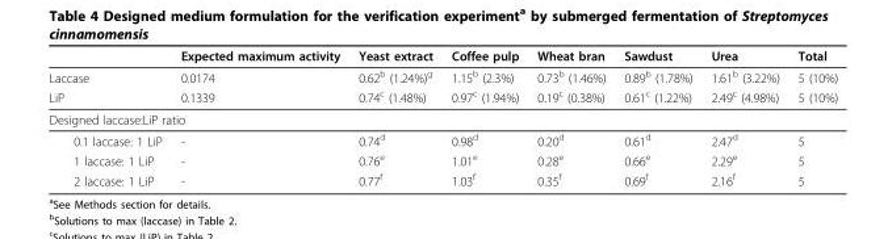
<table><thead><tr><td></td><td>Expected maximum activity</td><td>Yeast extract</td><td>Coffee pulp</td><td>Wheat bran</td><td>Sawdust</td><td>Urea</td><td>Total</td></tr></thead><tbody><tr><td>Laccase</td><td>0.0174</td><td>0.62<sup>b</sup> (1.24%)<sup>g</sup></td><td>1.15<sup>b</sup> (2.3%)</td><td>0.73<sup>b</sup> (1.46%)</td><td>0.89<sup>b</sup> (1.78%)</td><td>1.61<sup>b</sup> (3.22%)</td><td>5 (10%)</td></tr><tr><td>LiP</td><td>0.1339</td><td>0.74<sup>c</sup> (1.48%)</td><td>0.97<sup>c</sup> (1.94%)</td><td>0.19<sup>c</sup> (0.38%)</td><td>0.61<sup>c</sup> (1.22%)</td><td>2.49<sup>c</sup> (4.98%)</td><td>5 (10%)</td></tr><tr><td colspan="8">Designed laccase:LiP ratio</td></tr><tr><td>0.1 laccase: 1 LiP</td><td>-</td><td>0.74<sup>d</sup></td><td>0.98<sup>d</sup></td><td>0.20<sup>d</sup></td><td>0.61<sup>d</sup></td><td>2.47<sup>d</sup></td><td>5</td></tr><tr><td>1 laccase: 1 LiP</td><td>-</td><td>0.76<sup>e</sup></td><td>1.01<sup>e</sup></td><td>0.28<sup>e</sup></td><td>0.66<sup>e</sup></td><td>2.29<sup>e</sup></td><td>5</td></tr><tr><td>2 laccase: 1 LiP</td><td>-</td><td>0.77<sup>f</sup></td><td>1.03<sup>f</sup></td><td>0.35<sup>f</sup></td><td>0.69<sup>f</sup></td><td>2.16<sup>f</sup></td><td>5</td></tr></tbody></table>